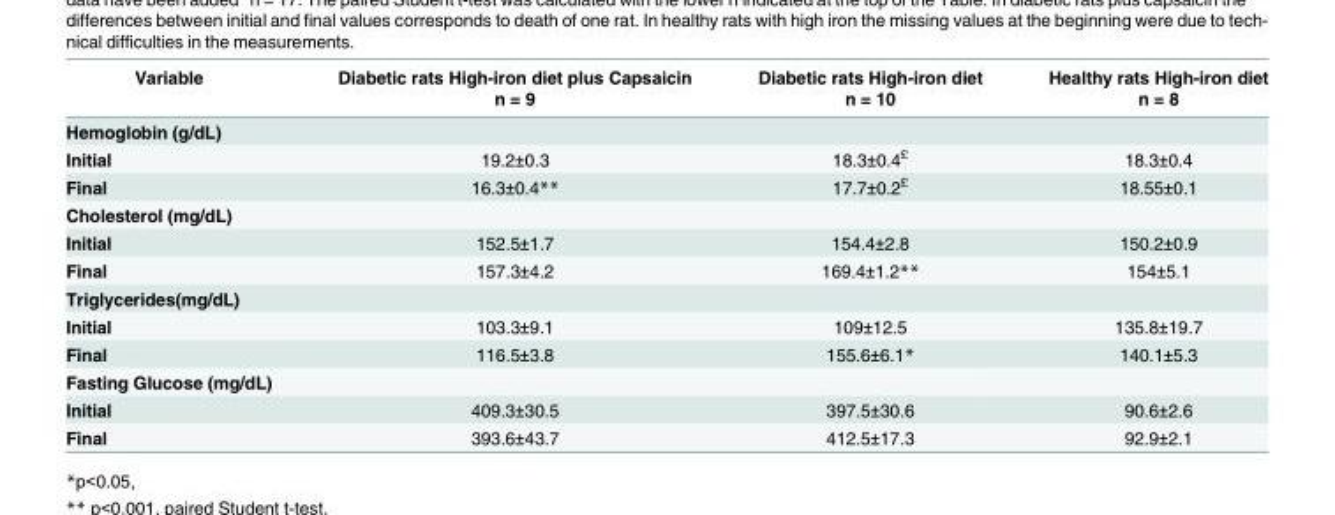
<table><thead><tr><td rowspan="2">Variable</td><td rowspan="2">Diabetic rats High-iron diet plus Capsaicin n = 9</td><td rowspan="2">Diabetic rats High-iron diet n = 10</td><td rowspan="2">Healthy rats High-iron diet n = 8</td></tr><tr></tr></thead><tbody><tr><td colspan="4">Hemoglobin (g/dL)</td></tr><tr><td>Initial</td><td>19.2±0.3</td><td>18.3±0.4<sup>£</sup></td><td>18.3±0.4</td></tr><tr><td>Final</td><td>16.3±0.4**</td><td>17.7±0.2<sup>£</sup></td><td>18.55±0.1</td></tr><tr><td colspan="4">Cholesterol (mg/dL)</td></tr><tr><td>Initial</td><td>152.5±1.7</td><td>154.4±2.8</td><td>150.2±0.9</td></tr><tr><td>Final</td><td>157.3±4.2</td><td>169.4±1.2**</td><td>154±5.1</td></tr><tr><td colspan="4">Triglycerides(mg/dL)</td></tr><tr><td>Initial</td><td>103.3±9.1</td><td>109±12.5</td><td>135.8±19.7</td></tr><tr><td>Final</td><td>116.5±3.8</td><td>155.6±6.1*</td><td>140.1±5.3</td></tr><tr><td colspan="4">Fasting Glucose (mg/dL)</td></tr><tr><td>Initial</td><td>409.3±30.5</td><td>397.5±30.6</td><td>90.6±2.6</td></tr><tr><td>Final</td><td>393.6±43.7</td><td>412.5±17.3</td><td>92.9±2.1</td></tr></tbody></table>